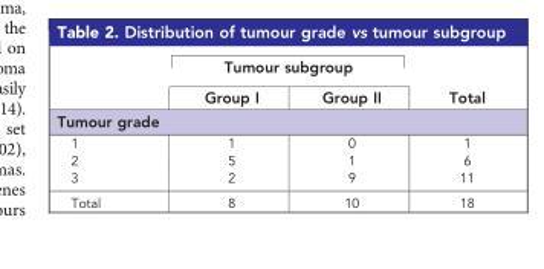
<table><thead><tr><td rowspan="2"></td><td colspan="2">Tumour subgroup</td><td rowspan="2">Total</td></tr><tr><td>Group I</td><td>Group II</td></tr></thead><tbody><tr><td colspan="4">Tumour grade</td></tr><tr><td>1</td><td>1</td><td>0</td><td>1</td></tr><tr><td>2</td><td>5</td><td>1</td><td>6</td></tr><tr><td>3</td><td>2</td><td>9</td><td>11</td></tr><tr><td>Total</td><td>8</td><td>10</td><td>18</td></tr></tbody></table>